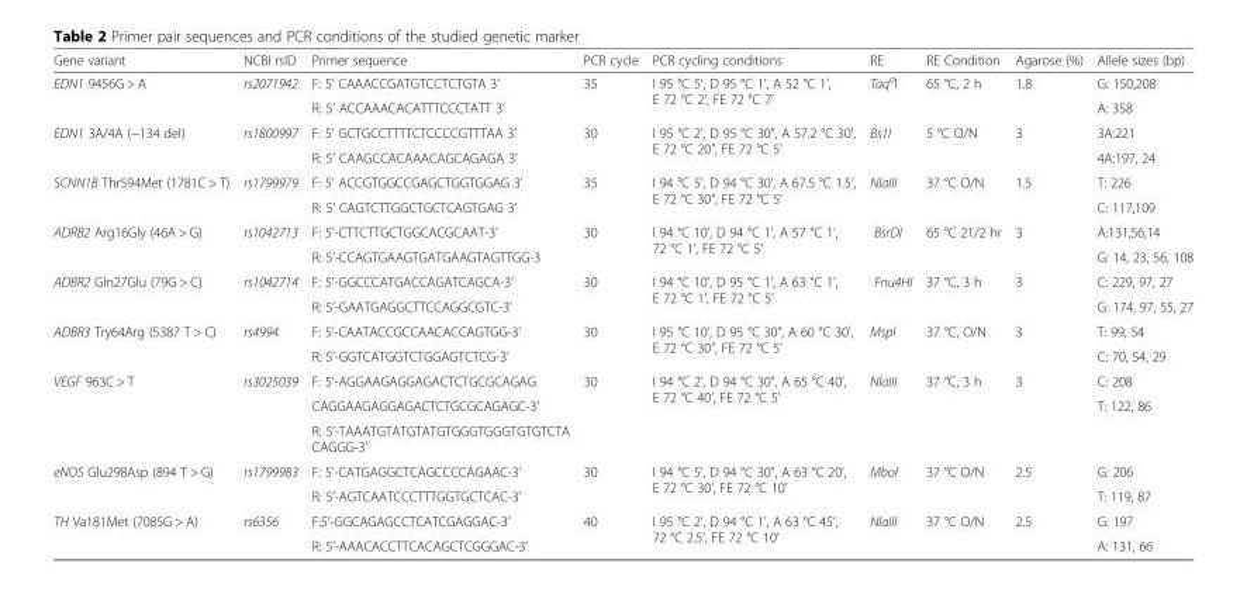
<table><thead><tr><td>Gene variant</td><td>NCBI rsID</td><td>Primer sequence</td><td>PCR cycle</td><td>PCR cycling conditions</td><td>RE</td><td>RE Condition</td><td>Agarose (%)</td><td>Allele sizes (bp)</td></tr></thead><tbody><tr><td rowspan="2">EDN1 9456G &gt; A</td><td rowspan="2">rs2071942</td><td>F: 5’ CAAACCGATGTCCTCTGTA 3’</td><td rowspan="2">35</td><td rowspan="2">I 95 °C 5’, D 95 °C 1’, A 52 °C 1’, E 72 °C 2’, FE 72 °C 7’</td><td rowspan="2">Taq<sup>α</sup>I</td><td rowspan="2">65 °C, 2 h</td><td rowspan="2">1.8</td><td>G: 150,208</td></tr><tr><td>R: 5’ ACCAAACACATTTCCCTATT 3’</td><td>A: 358</td></tr><tr><td rowspan="2">EDN1 3A/4A (−134 del)</td><td rowspan="2">rs1800997</td><td>F: 5’ GCTGCCTTTTCTCCCCGTTTAA 3’</td><td rowspan="2">30</td><td rowspan="2">I 95 °C 2’, D 95 °C 30”, A 57.2 °C 30’, E 72 °C 20”, FE 72 °C 5’</td><td rowspan="2">Bs1I</td><td rowspan="2">5 °C O/N</td><td rowspan="2">3</td><td>3A:221</td></tr><tr><td>R: 5’ CAAGCCACAAACAGCAGAGA 3’</td><td>4A:197, 24</td></tr><tr><td rowspan="2">SCNN1B Thr594Met (1781C &gt; T)</td><td rowspan="2">rs1799979</td><td>F: 5’ ACCGTGGCCGAGCTGGTGGAG 3’</td><td rowspan="2">35</td><td rowspan="2">I 94 °C 5’, D 94 °C 30’, A 67.5 °C 1.5’, E 72 °C 30”, FE 72 °C 5’</td><td rowspan="2">NlaIII</td><td rowspan="2">37 °C O/N</td><td rowspan="2">1.5</td><td>T: 226</td></tr><tr><td>R: 5’ CAGTCTTGGCTGCTCAGTGAG 3’</td><td>C: 117,109</td></tr><tr><td rowspan="2">ADRB2 Arg16Gly (46A &gt; G)</td><td rowspan="2">rs1042713</td><td>F: 5’-CTTCTTGCTGGCACGCAAT-3’</td><td rowspan="2">30</td><td rowspan="2">I 94 °C 10’, D 94 °C 1’, A 57 °C 1’, 72 °C 1’, FE 72 °C 5’</td><td rowspan="2">BsrDI</td><td rowspan="2">65 °C 21/2 hr</td><td rowspan="2">3</td><td>A:131,56,14</td></tr><tr><td>R: 5’-CCAGTGAAGTGATGAAGTAGTTGG-3</td><td>G: 14, 23, 56, 108</td></tr><tr><td rowspan="2">ADBR2 Gln27Glu (79G &gt; C)</td><td rowspan="2">rs1042714</td><td>F: 5’-GGCCCATGACCAGATCAGCA-3’</td><td rowspan="2">30</td><td rowspan="2">I 94 °C 10’, D 95 °C 1’, A 63 °C 1’, E 72 °C 1’, FE 72 °C 5’</td><td rowspan="2">Fnu4HI</td><td rowspan="2">37 °C, 3 h</td><td rowspan="2">3</td><td>C: 229, 97, 27</td></tr><tr><td>R: 5’-GAATGAGGCTTCCAGGCGTC-3’</td><td>G: 174, 97, 55, 27</td></tr><tr><td rowspan="2">ADBR3 Try64Arg (5387 T &gt; C)</td><td rowspan="2">rs4994</td><td>F: 5’-CAATACCGCCAACACCAGTGG-3’</td><td rowspan="2">30</td><td rowspan="2">I 95 °C 10’, D 95 °C 30”, A 60 °C 30’, E 72 °C 30”, FE 72 °C 5’</td><td rowspan="2">MspI</td><td rowspan="2">37 °C, O/N</td><td rowspan="2">3</td><td>T: 99, 54</td></tr><tr><td>R: 5’-GGTCATGGTCTGGAGTCTCG-3’</td><td>C: 70, 54, 29</td></tr><tr><td rowspan="3">VEGF 963C &gt; T</td><td rowspan="3">rs3025039</td><td>F: 5’-AGGAAGAGGAGACTCTGCGCAGAG</td><td rowspan="3">30</td><td rowspan="3">I 94 °C 2’, D 94 °C 30”, A 65 °C 40’, E 72 °C 40’, FE 72 °C 5’</td><td rowspan="3">NlaIII</td><td rowspan="3">37 °C, 3 h</td><td rowspan="3">3</td><td>C: 208</td></tr><tr><td>CAGGAAGAGGAGACTCTGCGCAGAGC-3’</td><td>T: 122, 86</td></tr><tr><td>R: 5’-TAAATGTATGTATGTGGGTGGGTGTGTCTA CAGGG-3’</td><td></td></tr><tr><td rowspan="2">eNOS Glu298Asp (894 T &gt; G)</td><td>rs1799983</td><td>F: 5’-CATGAGGCTCAGCCCCAGAAC-3’</td><td rowspan="2">30</td><td rowspan="2">I 94 °C 5’, D 94 °C 30”, A 63 °C 20’, E 72 °C 30’, FE 72 °C 10’</td><td rowspan="2">MboI</td><td rowspan="2">37 °C O/N</td><td rowspan="2">2.5</td><td>G: 206</td></tr><tr><td></td><td>R: 5’-AGTCAATCCCTTTGGTGCTCAC-3’</td><td>T: 119, 87</td></tr><tr><td rowspan="2">TH Va181Met (7085G &gt; A)</td><td rowspan="2">rs6356</td><td>F:5’-GGCAGAGCCTCATCGAGGAC-3’</td><td rowspan="2">40</td><td rowspan="2">I 95 °C 2’, D 94 °C 1’, A 63 °C 45’, 72 °C 2.5’, FE 72 °C 10’</td><td rowspan="2">NlaIII</td><td rowspan="2">37 °C O/N</td><td rowspan="2">2.5</td><td>G: 197</td></tr><tr><td>R: 5’-AAACACCTTCACAGCTCGGGAC-3’</td><td>A: 131, 66</td></tr></tbody></table>